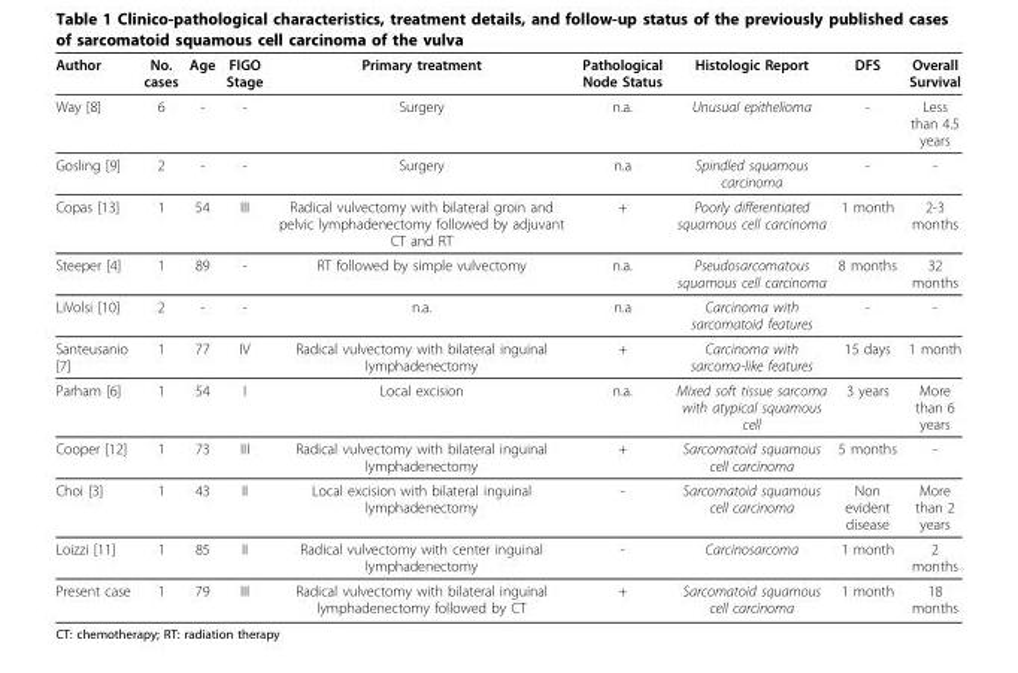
<table><thead><tr><td>Author</td><td>No. cases</td><td>Age</td><td>FIGO Stage</td><td>Primary treatment</td><td>Pathological Node Status</td><td>Histologic Report</td><td>DFS</td><td>Overall Survival</td></tr></thead><tbody><tr><td>Way [8]</td><td>6</td><td>-</td><td>-</td><td>Surgery</td><td>n.a.</td><td>Unusual epithelioma</td><td>-</td><td>Less than 4.5 years</td></tr><tr><td>Gosling [9]</td><td>2</td><td>-</td><td>-</td><td>Surgery</td><td>n.a</td><td>Spindled squamous carcinoma</td><td>-</td><td>-</td></tr><tr><td>Copas [13]</td><td>1</td><td>54</td><td>III</td><td>Radical vulvectomy with bilateral groin and pelvic lymphadenectomy followed by adjuvant CT and RT</td><td>+</td><td>Poorly differentiated squamous cell carcinoma</td><td>1 month</td><td>2-3 months</td></tr><tr><td>Steeper [4]</td><td>1</td><td>89</td><td>-</td><td>RT followed by simple vulvectomy</td><td>n.a.</td><td>Pseudosarcomatous squamous cell carcinoma</td><td>8 months</td><td>32 months</td></tr><tr><td>LiVolsi [10]</td><td>2</td><td>-</td><td>-</td><td>n.a.</td><td>n.a</td><td>Carcinoma with sarcomatoid features</td><td>-</td><td>-</td></tr><tr><td>Santeusanio [7]</td><td>1</td><td>77</td><td>IV</td><td>Radical vulvectomy with bilateral inguinal lymphadenectomy</td><td>+</td><td>Carcinoma with sarcoma-like features</td><td>15 days</td><td>1 month</td></tr><tr><td>Parham [6]</td><td>1</td><td>54</td><td>I</td><td>Local excision</td><td>n.a.</td><td>Mixed soft tissue sarcoma with atypical squamous cell</td><td>3 years</td><td>More than 6 years</td></tr><tr><td>Cooper [12]</td><td>1</td><td>73</td><td>III</td><td>Radical vulvectomy with bilateral inguinal lymphadenectomy</td><td>+</td><td>Sarcomatoid squamous cell carcinoma</td><td>5 months</td><td>-</td></tr><tr><td>Choi [3]</td><td>1</td><td>43</td><td>II</td><td>Local excision with bilateral inguinal lymphadenectomy</td><td>-</td><td>Sarcomatoid squamous cell carcinoma</td><td>Non evident disease</td><td>More than 2 years</td></tr><tr><td>Loizzi [11]</td><td>1</td><td>85</td><td>II</td><td>Radical vulvectomy with center inguinal lymphadenectomy</td><td>-</td><td>Carcinosarcoma</td><td>1 month</td><td>2 months</td></tr><tr><td>Present case</td><td>1</td><td>79</td><td>III</td><td>Radical vulvectomy with bilateral inguinal lymphadenectomy followed by CT</td><td>+</td><td>Sarcomatoid squamous cell carcinoma</td><td>1 month</td><td>18 months</td></tr></tbody></table>